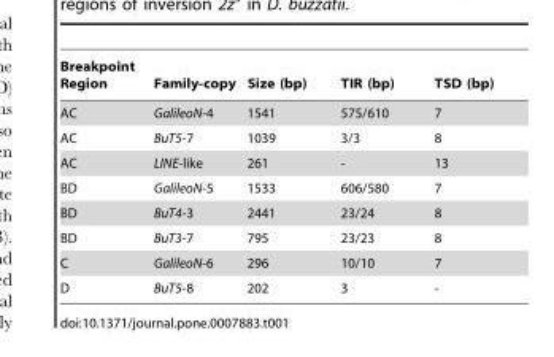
<table><thead><tr><td>Breakpoint Region</td><td>Family-copy</td><td>Size (bp)</td><td>TIR (bp)</td><td>TSD (bp)</td></tr></thead><tbody><tr><td>AC</td><td>GalileoN-4</td><td>1541</td><td>575/610</td><td>7</td></tr><tr><td>AC</td><td>BuT5-7</td><td>1039</td><td>3/3</td><td>8</td></tr><tr><td>AC</td><td>LINE-like</td><td>261</td><td>-</td><td>13</td></tr><tr><td>BD</td><td>GalileoN-5</td><td>1533</td><td>606/580</td><td>7</td></tr><tr><td>BD</td><td>BuT4-3</td><td>2441</td><td>23/24</td><td>8</td></tr><tr><td>BD</td><td>BuT3-7</td><td>795</td><td>23/23</td><td>8</td></tr><tr><td>C</td><td>GalileoN-6</td><td>296</td><td>10/10</td><td>7</td></tr><tr><td>D</td><td>BuT5-8</td><td>202</td><td>3</td><td>-</td></tr></tbody></table>